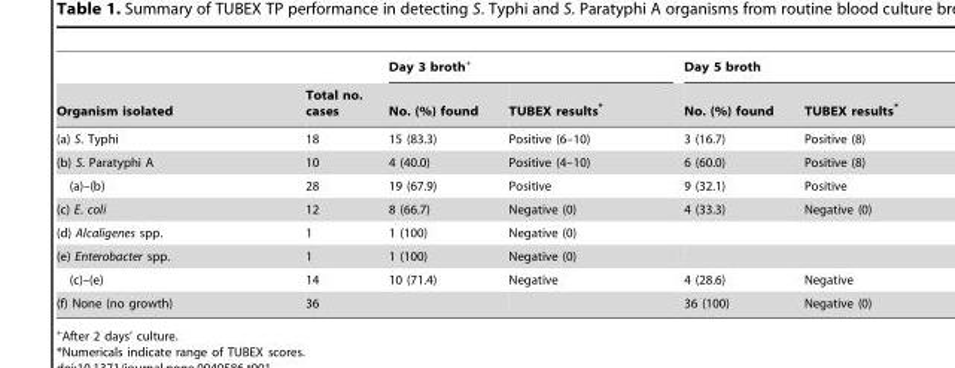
<table><thead><tr><td rowspan="2">Organism isolated</td><td rowspan="2">Total no. cases</td><td colspan="2">Day 3 broth+</td><td colspan="2">Day 5 broth</td></tr><tr><td>No. (%) found</td><td>TUBEX results*</td><td>No. (%) found</td><td>TUBEX results*</td></tr></thead><tbody><tr><td>(a) S. Typhi</td><td>18</td><td>15 (83.3)</td><td>Positive (6–10)</td><td>3 (16.7)</td><td>Positive (8)</td></tr><tr><td>(b) S. Paratyphi A</td><td>10</td><td>4 (40.0)</td><td>Positive (4–10)</td><td>6 (60.0)</td><td>Positive (8)</td></tr><tr><td>(a)–(b)</td><td>28</td><td>19 (67.9)</td><td>Positive</td><td>9 (32.1)</td><td>Positive</td></tr><tr><td>(c) E. coli</td><td>12</td><td>8 (66.7)</td><td>Negative (0)</td><td>4 (33.3)</td><td>Negative (0)</td></tr><tr><td>(d) Alcaligenes spp.</td><td>1</td><td>1 (100)</td><td>Negative (0)</td><td></td><td></td></tr><tr><td>(e) Enterobacter spp.</td><td>1</td><td>1 (100)</td><td>Negative (0)</td><td></td><td></td></tr><tr><td>(c)–(e)</td><td>14</td><td>10 (71.4)</td><td>Negative</td><td>4 (28.6)</td><td>Negative</td></tr><tr><td>(f) None (no growth)</td><td>36</td><td></td><td></td><td>36 (100)</td><td>Negative (0)</td></tr></tbody></table>